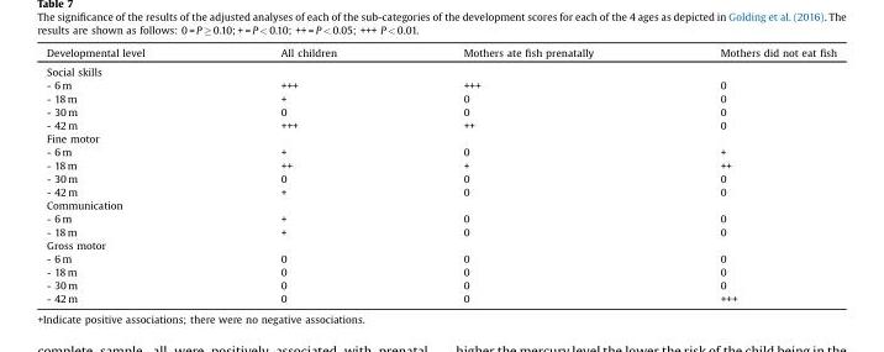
<table><thead><tr><td>Developmental level</td><td>All children</td><td>Mothers ate fish prenatally</td><td>Mothers did not eat fish</td></tr></thead><tbody><tr><td colspan="4">Social skills</td></tr><tr><td>- 6 m</td><td>+++</td><td>+++</td><td>0</td></tr><tr><td>- 18 m</td><td>+</td><td>0</td><td>0</td></tr><tr><td>- 30 m</td><td>0</td><td>0</td><td>0</td></tr><tr><td>- 42 m</td><td>+++</td><td>++</td><td>0</td></tr><tr><td colspan="4">Fine motor</td></tr><tr><td>- 6 m</td><td>+</td><td>0</td><td>+</td></tr><tr><td>- 18 m</td><td>++</td><td>+</td><td>++</td></tr><tr><td>- 30 m</td><td>0</td><td>0</td><td>0</td></tr><tr><td>- 42 m</td><td>+</td><td>0</td><td>0</td></tr><tr><td colspan="4">Communication</td></tr><tr><td>- 6 m</td><td>+</td><td>0</td><td>0</td></tr><tr><td>- 18 m</td><td>+</td><td>0</td><td>0</td></tr><tr><td colspan="4">Gross motor</td></tr><tr><td>- 6 m</td><td>0</td><td>0</td><td>0</td></tr><tr><td>- 18 m</td><td>0</td><td>0</td><td>0</td></tr><tr><td>- 30 m</td><td>0</td><td>0</td><td>0</td></tr><tr><td>- 42 m</td><td>0</td><td>0</td><td>+++</td></tr></tbody></table>